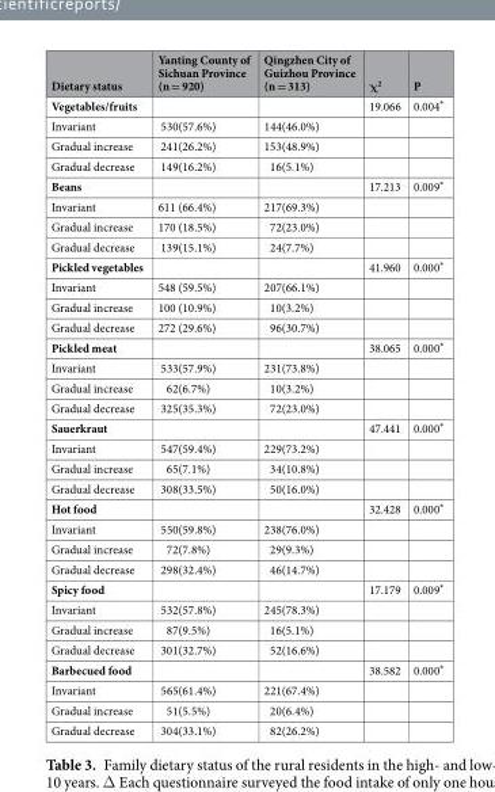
<table><thead><tr><td>Dietary status</td><td>Yanting County of Sichuan Province (n = 920)</td><td>Qingzhen City of Guizhou Province (n = 313)</td><td>χ<sup>2</sup></td><td>P</td></tr></thead><tbody><tr><td>Vegetables/fruits</td><td></td><td></td><td>19.066</td><td>0.004*</td></tr><tr><td>Invariant</td><td>530(57.6%)</td><td>144(46.0%)</td><td></td><td></td></tr><tr><td>Gradual increase</td><td>241(26.2%)</td><td>153(48.9%)</td><td></td><td></td></tr><tr><td>Gradual decrease</td><td>149(16.2%)</td><td>16(5.1%)</td><td></td><td></td></tr><tr><td>Beans</td><td></td><td></td><td>17.213</td><td>0.009*</td></tr><tr><td>Invariant</td><td>611 (66.4%)</td><td>217(69.3%)</td><td></td><td></td></tr><tr><td>Gradual increase</td><td>170 (18.5%)</td><td>72(23.0%)</td><td></td><td></td></tr><tr><td>Gradual decrease</td><td>139(15.1%)</td><td>24(7.7%)</td><td></td><td></td></tr><tr><td>Pickled vegetables</td><td></td><td></td><td>41.960</td><td>0.000*</td></tr><tr><td>Invariant</td><td>548 (59.5%)</td><td>207(66.1%)</td><td></td><td></td></tr><tr><td>Gradual increase</td><td>100 (10.9%)</td><td>10(3.2%)</td><td></td><td></td></tr><tr><td>Gradual decrease</td><td>272 (29.6%)</td><td>96(30.7%)</td><td></td><td></td></tr><tr><td>Pickled meat</td><td></td><td></td><td>38.065</td><td>0.000*</td></tr><tr><td>Invariant</td><td>533(57.9%)</td><td>231(73.8%)</td><td></td><td></td></tr><tr><td>Gradual increase</td><td>62(6.7%)</td><td>10(3.2%)</td><td></td><td></td></tr><tr><td>Gradual decrease</td><td>325(35.3%)</td><td>72(23.0%)</td><td></td><td></td></tr><tr><td>Sauerkraut</td><td></td><td></td><td>47.441</td><td>0.000*</td></tr><tr><td>Invariant</td><td>547(59.4%)</td><td>229(73.2%)</td><td></td><td></td></tr><tr><td>Gradual increase</td><td>65(7.1%)</td><td>34(10.8%)</td><td></td><td></td></tr><tr><td>Gradual decrease</td><td>308(33.5%)</td><td>50(16.0%)</td><td></td><td></td></tr><tr><td>Hot food</td><td></td><td></td><td>32.428</td><td>0.000*</td></tr><tr><td>Invariant</td><td>550(59.8%)</td><td>238(76.0%)</td><td></td><td></td></tr><tr><td>Gradual increase</td><td>72(7.8%)</td><td>29(9.3%)</td><td></td><td></td></tr><tr><td>Gradual decrease</td><td>298(32.4%)</td><td>46(14.7%)</td><td></td><td></td></tr><tr><td>Spicy food</td><td></td><td></td><td>17.179</td><td>0.009*</td></tr><tr><td>Invariant</td><td>532(57.8%)</td><td>245(78.3%)</td><td></td><td></td></tr><tr><td>Gradual increase</td><td>87(9.5%)</td><td>16(5.1%)</td><td></td><td></td></tr><tr><td>Gradual decrease</td><td>301(32.7%)</td><td>52(16.6%)</td><td></td><td></td></tr><tr><td>Barbecued food</td><td></td><td></td><td>38.582</td><td>0.000*</td></tr><tr><td>Invariant</td><td>565(61.4%)</td><td>221(67.4%)</td><td></td><td></td></tr><tr><td>Gradual increase</td><td>51(5.5%)</td><td>20(6.4%)</td><td></td><td></td></tr><tr><td>Gradual decrease</td><td>304(33.1%)</td><td>82(26.2%)</td><td></td><td></td></tr></tbody></table>